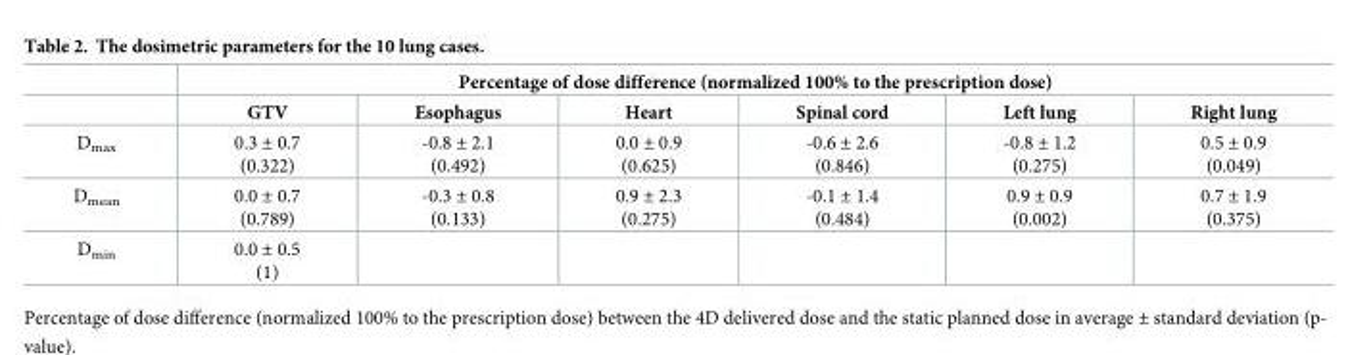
<table><thead><tr><td rowspan="2"></td><td colspan="6">Percentage of dose difference (normalized 100% to the prescription dose)</td></tr><tr><td>GTV</td><td>Esophagus</td><td>Heart</td><td>Spinal cord</td><td>Left lung</td><td>Right lung</td></tr></thead><tbody><tr><td>D<sub>max</sub></td><td>0.3 ± 0.7 (0.322)</td><td>-0.8 ± 2.1 (0.492)</td><td>0.0 ± 0.9 (0.625)</td><td>-0.6 ± 2.6 (0.846)</td><td>-0.8 ± 1.2 (0.275)</td><td>0.5 ± 0.9 (0.049)</td></tr><tr><td>D<sub>mean</sub></td><td>0.0 ± 0.7 (0.789)</td><td>-0.3 ± 0.8 (0.133)</td><td>0.9 ± 2.3 (0.275)</td><td>-0.1 ± 1.4 (0.484)</td><td>0.9 ± 0.9 (0.002)</td><td>0.7 ± 1.9 (0.375)</td></tr><tr><td>D<sub>min</sub></td><td>0.0 ± 0.5 (1)</td><td></td><td></td><td></td><td></td><td></td></tr></tbody></table>